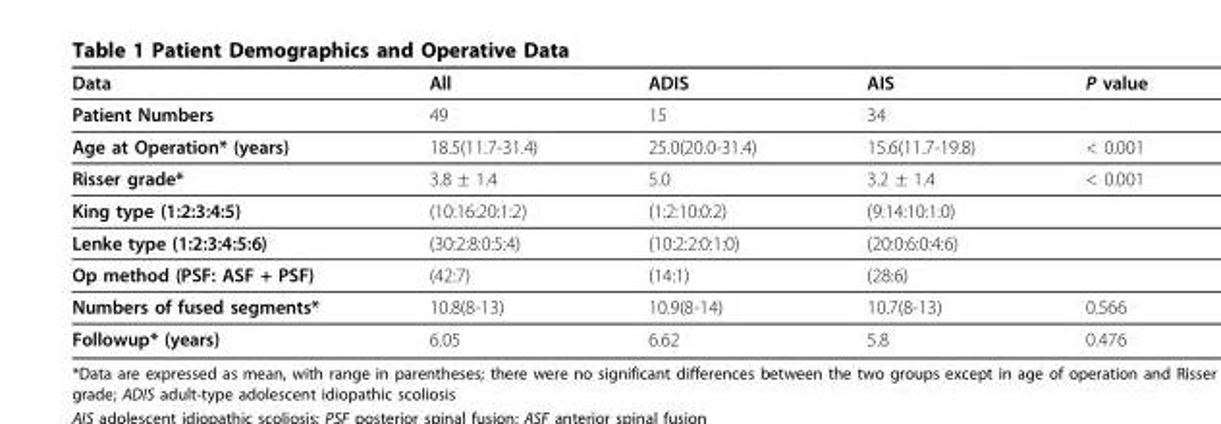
<table><thead><tr><td>Data</td><td>All</td><td>ADIS</td><td>AIS</td><td>P value</td></tr></thead><tbody><tr><td>Patient Numbers</td><td>49</td><td>15</td><td>34</td><td></td></tr><tr><td>Age at Operation* (years)</td><td>18.5(11.7-31.4)</td><td>25.0(20.0-31.4)</td><td>15.6(11.7-19.8)</td><td>&lt; 0.001</td></tr><tr><td>Risser grade*</td><td>3.8 ± 1.4</td><td>5.0</td><td>3.2 ± 1.4</td><td>&lt; 0.001</td></tr><tr><td>King type (1:2:3:4:5)</td><td>(10:16:20:1:2)</td><td>(1:2:10:0:2)</td><td>(9:14:10:1:0)</td><td></td></tr><tr><td>Lenke type (1:2:3:4:5:6)</td><td>(30:2:8:0:5:4)</td><td>(10:2:2:0:1:0)</td><td>(20:0:6:0:4:6)</td><td></td></tr><tr><td>Op method (PSF: ASF + PSF)</td><td>(42:7)</td><td>(14:1)</td><td>(28:6)</td><td></td></tr><tr><td>Numbers of fused segments*</td><td>10.8(8-13)</td><td>10.9(8-14)</td><td>10.7(8-13)</td><td>0.566</td></tr><tr><td>Followup* (years)</td><td>6.05</td><td>6.62</td><td>5.8</td><td>0.476</td></tr></tbody></table>